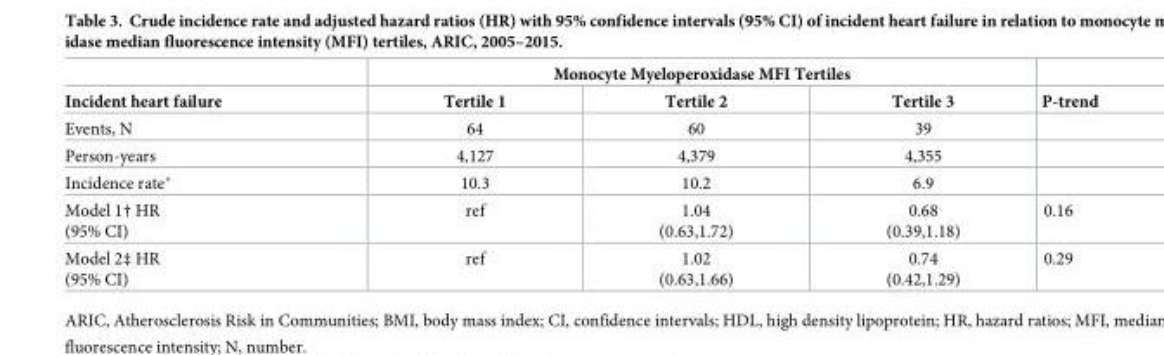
<table><thead><tr><td rowspan="2">Incident heart failure</td><td colspan="3">Monocyte Myeloperoxidase MFI Tertiles</td><td rowspan="2">P-trend</td></tr><tr><td>Tertile 1</td><td>Tertile 2</td><td>Tertile 3</td></tr></thead><tbody><tr><td>Events, N</td><td>64</td><td>60</td><td>39</td><td></td></tr><tr><td>Person-years</td><td>4,127</td><td>4,379</td><td>4,355</td><td></td></tr><tr><td>Incidence rate*</td><td>10.3</td><td>10.2</td><td>6.9</td><td></td></tr><tr><td>Model 1† HR (95% CI)</td><td>ref</td><td>1.04 (0.63,1.72)</td><td>0.68 (0.39,1.18)</td><td>0.16</td></tr><tr><td>Model 2‡ HR (95% CI)</td><td>ref</td><td>1.02 (0.63,1.66)</td><td>0.74 (0.42,1.29)</td><td>0.29</td></tr></tbody></table>